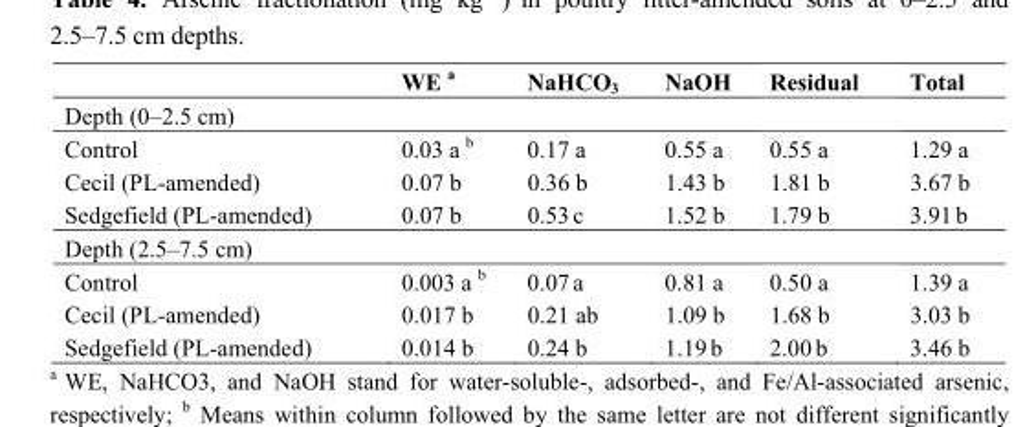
<table><thead><tr><td></td><td>WE <sup>a</sup></td><td>NaHCO<sub>3</sub></td><td>NaOH</td><td>Residual</td><td>Total</td></tr></thead><tbody><tr><td colspan="6">Depth (0–2.5 cm)</td></tr><tr><td>Control</td><td>0.03 a <sup>b</sup></td><td>0.17 a</td><td>0.55 a</td><td>0.55 a</td><td>1.29 a</td></tr><tr><td>Cecil (PL-amended)</td><td>0.07 b</td><td>0.36 b</td><td>1.43 b</td><td>1.81 b</td><td>3.67 b</td></tr><tr><td>Sedgefield (PL-amended)</td><td>0.07 b</td><td>0.53 c</td><td>1.52 b</td><td>1.79 b</td><td>3.91 b</td></tr><tr><td colspan="6">Depth (2.5–7.5 cm)</td></tr><tr><td>Control</td><td>0.003 a <sup>b</sup></td><td>0.07 a</td><td>0.81 a</td><td>0.50 a</td><td>1.39 a</td></tr><tr><td>Cecil (PL-amended)</td><td>0.017 b</td><td>0.21 ab</td><td>1.09 b</td><td>1.68 b</td><td>3.03 b</td></tr><tr><td>Sedgefield (PL-amended)</td><td>0.014 b</td><td>0.24 b</td><td>1.19 b</td><td>2.00 b</td><td>3.46 b</td></tr></tbody></table>